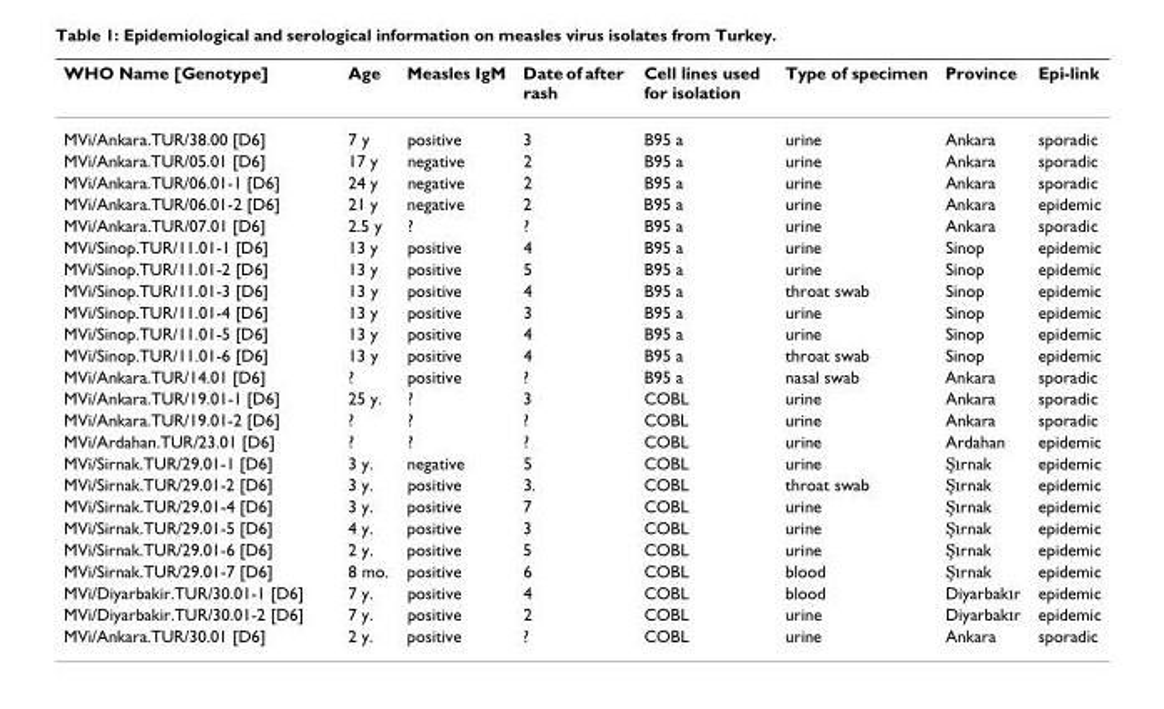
<table><thead><tr><td>WHO Name [Genotype]</td><td>Age</td><td>Measles IgM</td><td>Date of after rash</td><td>Cell lines used for isolation</td><td>Type of specimen</td><td>Province</td><td>Epi-link</td></tr></thead><tbody><tr><td>MVi/Ankara.TUR/38.00 [D6]</td><td>7 y</td><td>positive</td><td>3</td><td>B95 a</td><td>urine</td><td>Ankara</td><td>sporadic</td></tr><tr><td>MVi/Ankara.TUR/05.01 [D6]</td><td>17 y</td><td>negative</td><td>2</td><td>B95 a</td><td>urine</td><td>Ankara</td><td>sporadic</td></tr><tr><td>MVi/Ankara.TUR/06.01-1 [D6]</td><td>24 y</td><td>negative</td><td>2</td><td>B95 a</td><td>urine</td><td>Ankara</td><td>sporadic</td></tr><tr><td>MVi/Ankara.TUR/06.01-2 [D6]</td><td>21 y</td><td>negative</td><td>2</td><td>B95 a</td><td>urine</td><td>Ankara</td><td>epidemic</td></tr><tr><td>MVi/Ankara.TUR/07.01 [D6]</td><td>2.5 y</td><td>?</td><td>?</td><td>B95 a</td><td>urine</td><td>Ankara</td><td>sporadic</td></tr><tr><td>MVi/Sinop.TUR/11.01-1 [D6]</td><td>13 y</td><td>positive</td><td>4</td><td>B95 a</td><td>urine</td><td>Sinop</td><td>epidemic</td></tr><tr><td>MVi/Sinop.TUR/11.01-2 [D6]</td><td>13 y</td><td>positive</td><td>5</td><td>B95 a</td><td>urine</td><td>Sinop</td><td>epidemic</td></tr><tr><td>MVi/Sinop.TUR/11.01-3 [D6]</td><td>13 y</td><td>positive</td><td>4</td><td>B95 a</td><td>throat swab</td><td>Sinop</td><td>epidemic</td></tr><tr><td>MVi/Sinop.TUR/11.01-4 [D6]</td><td>13 y</td><td>positive</td><td>3</td><td>B95 a</td><td>urine</td><td>Sinop</td><td>epidemic</td></tr><tr><td>MVi/Sinop.TUR/11.01-5 [D6]</td><td>13 y</td><td>positive</td><td>4</td><td>B95 a</td><td>urine</td><td>Sinop</td><td>epidemic</td></tr><tr><td>MVi/Sinop.TUR/11.01-6 [D6]</td><td>13 y</td><td>positive</td><td>4</td><td>B95 a</td><td>throat swab</td><td>Sinop</td><td>epidemic</td></tr><tr><td>MVi/Ankara.TUR/14.01 [D6]</td><td>?</td><td>positive</td><td>?</td><td>B95 a</td><td>nasal swab</td><td>Ankara</td><td>sporadic</td></tr><tr><td>MVi/Ankara.TUR/19.01-1 [D6]</td><td>25 y.</td><td>?</td><td>3</td><td>COBL</td><td>urine</td><td>Ankara</td><td>sporadic</td></tr><tr><td>MVi/Ankara.TUR/19.01-2 [D6]</td><td>?</td><td>?</td><td>?</td><td>COBL</td><td>urine</td><td>Ankara</td><td>sporadic</td></tr><tr><td>MVi/Ardahan.TUR/23.01 [D6]</td><td>?</td><td>?</td><td>?</td><td>COBL</td><td>urine</td><td>Ardahan</td><td>epidemic</td></tr><tr><td>MVi/Sirnak.TUR/29.01-1 [D6]</td><td>3 y.</td><td>negative</td><td>5</td><td>COBL</td><td>urine</td><td>Şırnak</td><td>epidemic</td></tr><tr><td>MVi/Sirnak.TUR/29.01-2 [D6]</td><td>3 y.</td><td>positive</td><td>3.</td><td>COBL</td><td>throat swab</td><td>Şırnak</td><td>epidemic</td></tr><tr><td>MVi/Sirnak.TUR/29.01-4 [D6]</td><td>3 y.</td><td>positive</td><td>7</td><td>COBL</td><td>urine</td><td>Şırnak</td><td>epidemic</td></tr><tr><td>MVi/Sirnak.TUR/29.01-5 [D6]</td><td>4 y.</td><td>positive</td><td>3</td><td>COBL</td><td>urine</td><td>Şırnak</td><td>epidemic</td></tr><tr><td>MVi/Sirnak.TUR/29.01-6 [D6]</td><td>2 y.</td><td>positive</td><td>5</td><td>COBL</td><td>urine</td><td>Şırnak</td><td>epidemic</td></tr><tr><td>MVi/Sirnak.TUR/29.01-7 [D6]</td><td>8 mo.</td><td>positive</td><td>6</td><td>COBL</td><td>blood</td><td>Şırnak</td><td>epidemic</td></tr><tr><td>MVi/Diyarbakir.TUR/30.01-1 [D6]</td><td>7 y.</td><td>positive</td><td>4</td><td>COBL</td><td>blood</td><td>Diyarbakır</td><td>epidemic</td></tr><tr><td>MVi/Diyarbakir.TUR/30.01-2 [D6]</td><td>7 y.</td><td>positive</td><td>2</td><td>COBL</td><td>urine</td><td>Diyarbakır</td><td>epidemic</td></tr><tr><td>MVi/Ankara.TUR/30.01 [D6]</td><td>2 y.</td><td>positive</td><td>?</td><td>COBL</td><td>urine</td><td>Ankara</td><td>sporadic</td></tr></tbody></table>